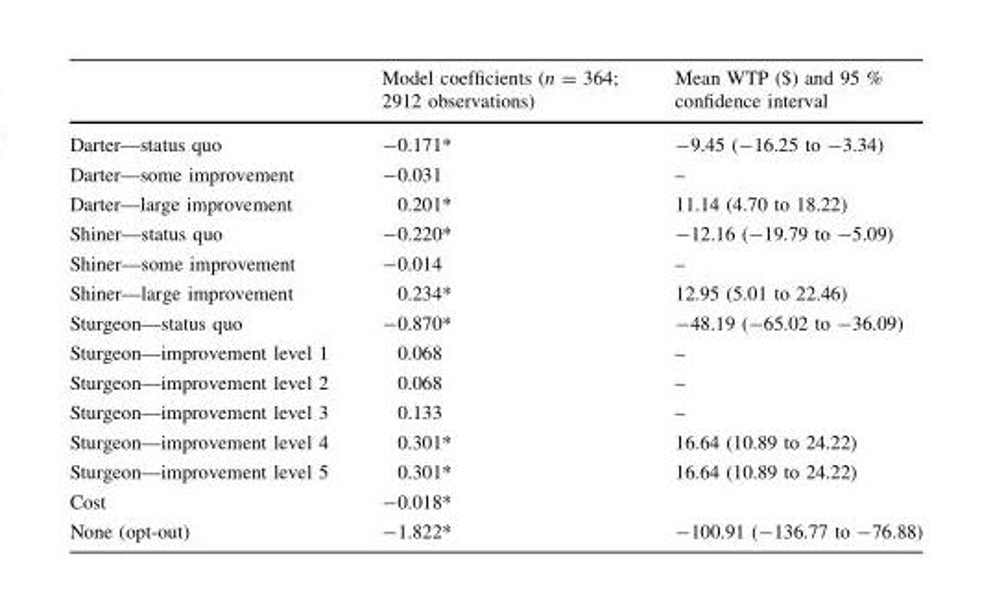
<table><thead><tr><td></td><td>Model coefficients (n = 364; 2912 observations)</td><td>Mean WTP ($) and 95 % confidence interval</td></tr></thead><tbody><tr><td>Darter—status quo</td><td>-0.171*</td><td>-9.45 (-16.25 to -3.34)</td></tr><tr><td>Darter—some improvement</td><td>-0.031</td><td>–</td></tr><tr><td>Darter—large improvement</td><td>0.201*</td><td>11.14 (4.70 to 18.22)</td></tr><tr><td>Shiner—status quo</td><td>-0.220*</td><td>-12.16 (-19.79 to -5.09)</td></tr><tr><td>Shiner—some improvement</td><td>-0.014</td><td>–</td></tr><tr><td>Shiner—large improvement</td><td>0.234*</td><td>12.95 (5.01 to 22.46)</td></tr><tr><td>Sturgeon—status quo</td><td>-0.870*</td><td>-48.19 (-65.02 to -36.09)</td></tr><tr><td>Sturgeon—improvement level 1</td><td>0.068</td><td>–</td></tr><tr><td>Sturgeon—improvement level 2</td><td>0.068</td><td>–</td></tr><tr><td>Sturgeon—improvement level 3</td><td>0.133</td><td>–</td></tr><tr><td>Sturgeon—improvement level 4</td><td>0.301*</td><td>16.64 (10.89 to 24.22)</td></tr><tr><td>Sturgeon—improvement level 5</td><td>0.301*</td><td>16.64 (10.89 to 24.22)</td></tr><tr><td>Cost</td><td>-0.018*</td><td></td></tr><tr><td>None (opt-out)</td><td>-1.822*</td><td>-100.91 (-136.77 to -76.88)</td></tr></tbody></table>